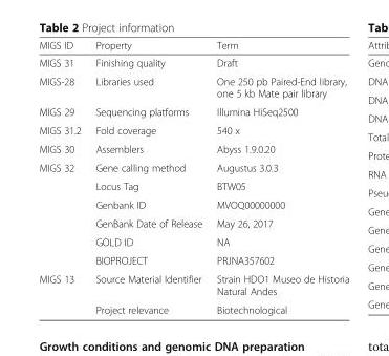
<table><thead><tr><td>MIGS ID</td><td>Property</td><td>Term</td></tr></thead><tbody><tr><td>MIGS 31</td><td>Finishing quality</td><td>Draft</td></tr><tr><td>MIGS-28</td><td>Libraries used</td><td>One 250 pb Paired-End library, one 5 kb Mate pair library</td></tr><tr><td>MIGS 29</td><td>Sequencing platforms</td><td>Illumina HiSeq2500</td></tr><tr><td>MIGS 31.2</td><td>Fold coverage</td><td>540 x</td></tr><tr><td>MIGS 30</td><td>Assemblers</td><td>Abyss 1.9.0.20</td></tr><tr><td rowspan="6">MIGS 32</td><td>Gene calling method</td><td>Augustus 3.0.3</td></tr><tr><td>Locus Tag</td><td>BTW05</td></tr><tr><td>Genbank ID</td><td>MVOQ00000000</td></tr><tr><td>GenBank Date of Release</td><td>May 26, 2017</td></tr><tr><td>GOLD ID</td><td>NA</td></tr><tr><td>BIOPROJECT</td><td>PRJNA357602</td></tr><tr><td rowspan="2">MIGS 13</td><td>Source Material Identifier</td><td>Strain HDO1 Museo de Historia Natural Andes</td></tr><tr><td>Project relevance</td><td>Biotechnological</td></tr></tbody></table>